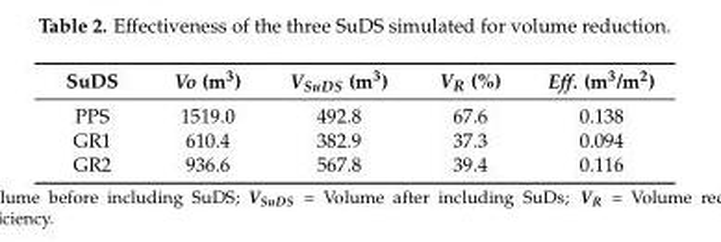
<table><thead><tr><td>SuDS</td><td>Vo (m<sup>3</sup>)</td><td>V<sub>SuDS</sub> (m<sup>3</sup>)</td><td>V<sub>R</sub> (%)</td><td>Eff. (m<sup>3</sup>/m<sup>2</sup>)</td></tr></thead><tbody><tr><td>PPS</td><td>1519.0</td><td>492.8</td><td>67.6</td><td>0.138</td></tr><tr><td>GR1</td><td>610.4</td><td>382.9</td><td>37.3</td><td>0.094</td></tr><tr><td>GR2</td><td>936.6</td><td>567.8</td><td>39.4</td><td>0.116</td></tr></tbody></table>